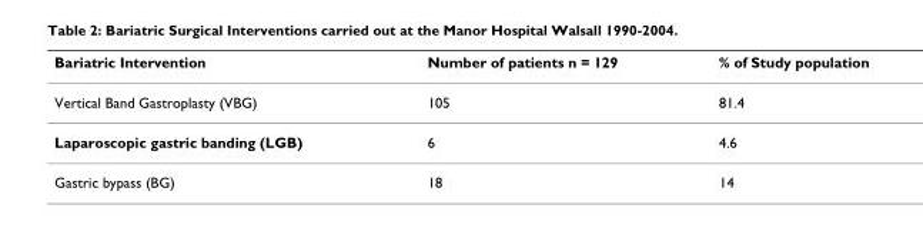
<table><thead><tr><td>Bariatric Intervention</td><td>Number of patients n = 129</td><td>% of Study population</td></tr></thead><tbody><tr><td>Vertical Band Gastroplasty (VBG)</td><td>105</td><td>81.4</td></tr><tr><td>Laparoscopic gastric banding (LGB)</td><td>6</td><td>4.6</td></tr><tr><td>Gastric bypass (BG)</td><td>18</td><td>14</td></tr></tbody></table>